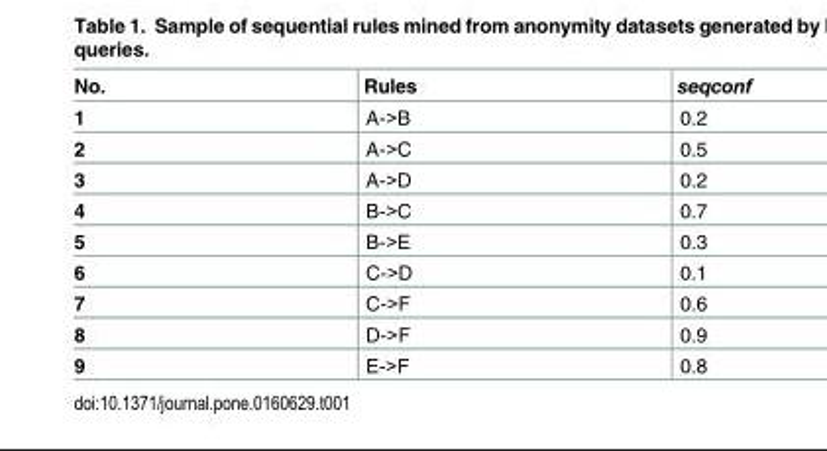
<table><thead><tr><td>No.</td><td>Rules</td><td>seqconf</td></tr></thead><tbody><tr><td>1</td><td>A-&gt;B</td><td>0.2</td></tr><tr><td>2</td><td>A-&gt;C</td><td>0.5</td></tr><tr><td>3</td><td>A-&gt;D</td><td>0.2</td></tr><tr><td>4</td><td>B-&gt;C</td><td>0.7</td></tr><tr><td>5</td><td>B-&gt;E</td><td>0.3</td></tr><tr><td>6</td><td>C-&gt;D</td><td>0.1</td></tr><tr><td>7</td><td>C-&gt;F</td><td>0.6</td></tr><tr><td>8</td><td>D-&gt;F</td><td>0.9</td></tr><tr><td>9</td><td>E-&gt;F</td><td>0.8</td></tr></tbody></table>